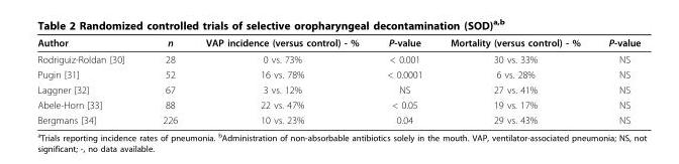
<table><thead><tr><td>Author</td><td>n</td><td>VAP incidence (versus control) - %</td><td>P-value</td><td>Mortality (versus control) - %</td><td>P-value</td></tr></thead><tbody><tr><td>Rodriguiz-Roldan [30]</td><td>28</td><td>0 vs. 73%</td><td>&lt; 0.001</td><td>30 vs. 33%</td><td>NS</td></tr><tr><td>Pugin [31]</td><td>52</td><td>16 vs. 78%</td><td>&lt; 0.0001</td><td>6 vs. 28%</td><td>NS</td></tr><tr><td>Laggner [32]</td><td>67</td><td>3 vs. 12%</td><td>NS</td><td>27 vs. 41%</td><td>NS</td></tr><tr><td>Abele-Horn [33]</td><td>88</td><td>22 vs. 47%</td><td>&lt; 0.05</td><td>19 vs. 17%</td><td>NS</td></tr><tr><td>Bergmans [34]</td><td>226</td><td>10 vs. 23%</td><td>0.04</td><td>29 vs. 43%</td><td>NS</td></tr></tbody></table>